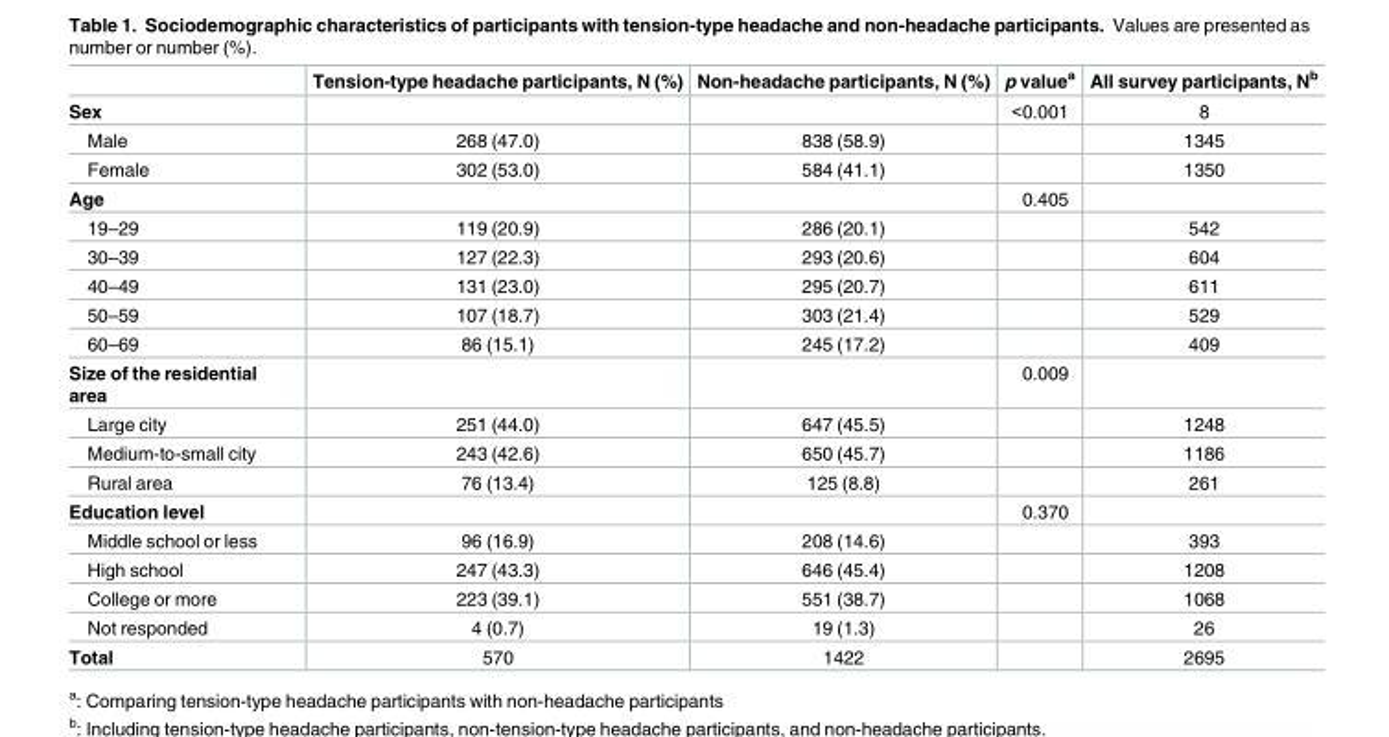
<table><thead><tr><td></td><td>Tension-type headache participants, N (%)</td><td>Non-headache participants, N (%)</td><td>p value<sup>a</sup></td><td>All survey participants, N<sup>b</sup></td></tr></thead><tbody><tr><td>Sex</td><td></td><td></td><td>&lt;0.001</td><td>8</td></tr><tr><td>Male</td><td>268 (47.0)</td><td>838 (58.9)</td><td></td><td>1345</td></tr><tr><td>Female</td><td>302 (53.0)</td><td>584 (41.1)</td><td></td><td>1350</td></tr><tr><td>Age</td><td></td><td></td><td>0.405</td><td></td></tr><tr><td>19–29</td><td>119 (20.9)</td><td>286 (20.1)</td><td></td><td>542</td></tr><tr><td>30–39</td><td>127 (22.3)</td><td>293 (20.6)</td><td></td><td>604</td></tr><tr><td>40–49</td><td>131 (23.0)</td><td>295 (20.7)</td><td></td><td>611</td></tr><tr><td>50–59</td><td>107 (18.7)</td><td>303 (21.4)</td><td></td><td>529</td></tr><tr><td>60–69</td><td>86 (15.1)</td><td>245 (17.2)</td><td></td><td>409</td></tr><tr><td>Size of the residential area</td><td></td><td></td><td>0.009</td><td></td></tr><tr><td>Large city</td><td>251 (44.0)</td><td>647 (45.5)</td><td></td><td>1248</td></tr><tr><td>Medium-to-small city</td><td>243 (42.6)</td><td>650 (45.7)</td><td></td><td>1186</td></tr><tr><td>Rural area</td><td>76 (13.4)</td><td>125 (8.8)</td><td></td><td>261</td></tr><tr><td>Education level</td><td></td><td></td><td>0.370</td><td></td></tr><tr><td>Middle school or less</td><td>96 (16.9)</td><td>208 (14.6)</td><td></td><td>393</td></tr><tr><td>High school</td><td>247 (43.3)</td><td>646 (45.4)</td><td></td><td>1208</td></tr><tr><td>College or more</td><td>223 (39.1)</td><td>551 (38.7)</td><td></td><td>1068</td></tr><tr><td>Not responded</td><td>4 (0.7)</td><td>19 (1.3)</td><td></td><td>26</td></tr><tr><td>Total</td><td>570</td><td>1422</td><td></td><td>2695</td></tr></tbody></table>